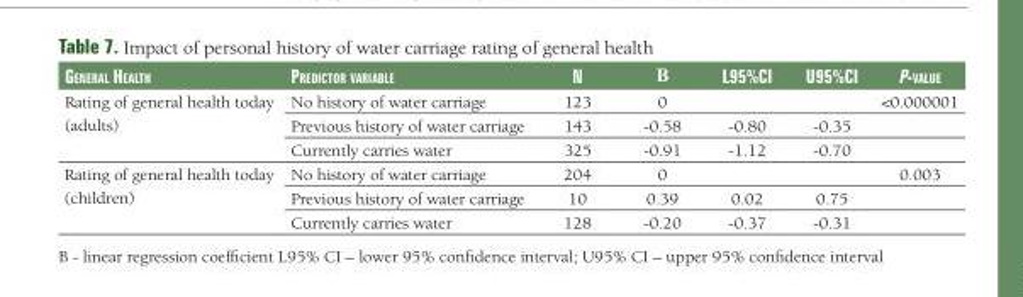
<table><thead><tr><td>General health</td><td>Predictor Variable</td><td>n</td><td>Β</td><td>l95%ci</td><td>u95%ci</td><td>P-Value</td></tr></thead><tbody><tr><td rowspan="3">Rating of general health today (adults)</td><td>No history of water carriage</td><td>123</td><td>0</td><td></td><td></td><td>&lt;0.000001</td></tr><tr><td>Previous history of water carriage</td><td>143</td><td>-0.58</td><td>-0.80</td><td>-0.35</td><td></td></tr><tr><td>Currently carries water</td><td>325</td><td>-0.91</td><td>-1.12</td><td>-0.70</td><td></td></tr><tr><td rowspan="3">Rating of general health today (children)</td><td>No history of water carriage</td><td>204</td><td>0</td><td></td><td></td><td>0.003</td></tr><tr><td>Previous history of water carriage</td><td>10</td><td>0.39</td><td>0.02</td><td>0.75</td><td></td></tr><tr><td>Currently carries water</td><td>128</td><td>-0.20</td><td>-0.37</td><td>-0.31</td><td></td></tr></tbody></table>